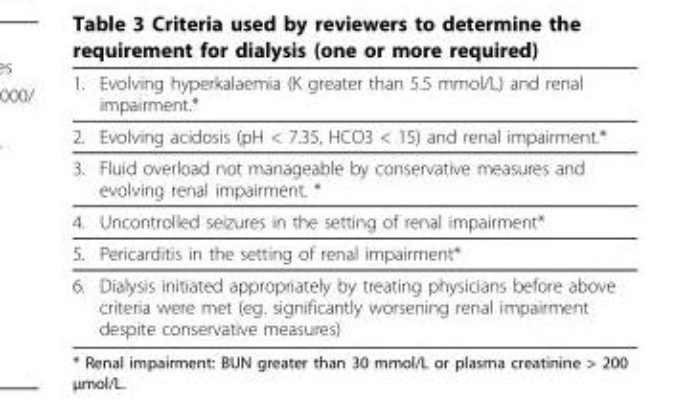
<table><thead><tr><td>1.</td><td>Evolving hyperkalaemia (K greater than 5.5 mmol/L) and renal impairment.*</td></tr></thead><tbody><tr><td>2.</td><td>Evolving acidosis (pH &lt; 7.35, HCO3 &lt; 15) and renal impairment.*</td></tr><tr><td>3.</td><td>Fluid overload not manageable by conservative measures and evolving renal impairment. *</td></tr><tr><td>4.</td><td>Uncontrolled seizures in the setting of renal impairment*</td></tr><tr><td>5.</td><td>Pericarditis in the setting of renal impairment*</td></tr><tr><td>6.</td><td>Dialysis initiated appropriately by treating physicians before above criteria were met (eg. significantly worsening renal impairment despite conservative measures)</td></tr></tbody></table>